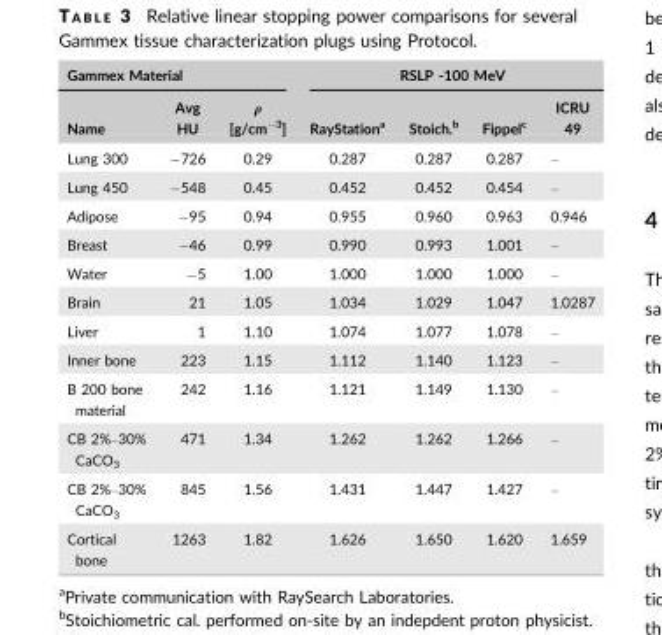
<table><thead><tr><td colspan="3">Gammex Material</td><td colspan="4">RSLP -100 MeV</td></tr><tr><td>Name</td><td>Avg HU</td><td>ρ [g/cm<sup>−3</sup>]</td><td>RayStation<sup>a</sup></td><td>Stoich.<sup>b</sup></td><td>Fippel<sup>c</sup></td><td>ICRU 49</td></tr></thead><tbody><tr><td>Lung 300</td><td>−726</td><td>0.29</td><td>0.287</td><td>0.287</td><td>0.287</td><td>–</td></tr><tr><td>Lung 450</td><td>−548</td><td>0.45</td><td>0.452</td><td>0.452</td><td>0.454</td><td>–</td></tr><tr><td>Adipose</td><td>−95</td><td>0.94</td><td>0.955</td><td>0.960</td><td>0.963</td><td>0.946</td></tr><tr><td>Breast</td><td>−46</td><td>0.99</td><td>0.990</td><td>0.993</td><td>1.001</td><td>–</td></tr><tr><td>Water</td><td>−5</td><td>1.00</td><td>1.000</td><td>1.000</td><td>1.000</td><td>–</td></tr><tr><td>Brain</td><td>21</td><td>1.05</td><td>1.034</td><td>1.029</td><td>1.047</td><td>1.0287</td></tr><tr><td>Liver</td><td>1</td><td>1.10</td><td>1.074</td><td>1.077</td><td>1.078</td><td>–</td></tr><tr><td>Inner bone</td><td>223</td><td>1.15</td><td>1.112</td><td>1.140</td><td>1.123</td><td>–</td></tr><tr><td>B 200 bone material</td><td>242</td><td>1.16</td><td>1.121</td><td>1.149</td><td>1.130</td><td>–</td></tr><tr><td>CB 2%–30% CaCO<sub>3</sub></td><td>471</td><td>1.34</td><td>1.262</td><td>1.262</td><td>1.266</td><td>–</td></tr><tr><td>CB 2%–30% CaCO<sub>3</sub></td><td>845</td><td>1.56</td><td>1.431</td><td>1.447</td><td>1.427</td><td>–</td></tr><tr><td>Cortical bone</td><td>1263</td><td>1.82</td><td>1.626</td><td>1.650</td><td>1.620</td><td>1.659</td></tr></tbody></table>